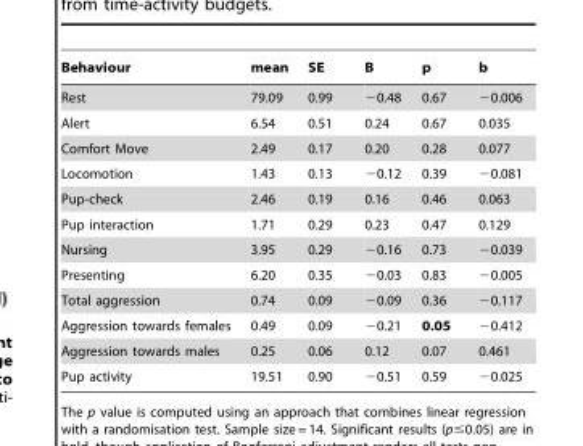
<table><thead><tr><td>Behaviour</td><td>mean</td><td>SE</td><td>B</td><td>p</td><td>b</td></tr></thead><tbody><tr><td>Rest</td><td>79.09</td><td>0.99</td><td>−0.48</td><td>0.67</td><td>−0.006</td></tr><tr><td>Alert</td><td>6.54</td><td>0.51</td><td>0.24</td><td>0.67</td><td>0.035</td></tr><tr><td>Comfort Move</td><td>2.49</td><td>0.17</td><td>0.20</td><td>0.28</td><td>0.077</td></tr><tr><td>Locomotion</td><td>1.43</td><td>0.13</td><td>−0.12</td><td>0.39</td><td>−0.081</td></tr><tr><td>Pup-check</td><td>2.46</td><td>0.19</td><td>0.16</td><td>0.46</td><td>0.063</td></tr><tr><td>Pup interaction</td><td>1.71</td><td>0.29</td><td>0.23</td><td>0.47</td><td>0.129</td></tr><tr><td>Nursing</td><td>3.95</td><td>0.29</td><td>−0.16</td><td>0.73</td><td>−0.039</td></tr><tr><td>Presenting</td><td>6.20</td><td>0.35</td><td>−0.03</td><td>0.83</td><td>−0.005</td></tr><tr><td>Total aggression</td><td>0.74</td><td>0.09</td><td>−0.09</td><td>0.36</td><td>−0.117</td></tr><tr><td>Aggression towards females</td><td>0.49</td><td>0.09</td><td>−0.21</td><td>0.05</td><td>−0.412</td></tr><tr><td>Aggression towards males</td><td>0.25</td><td>0.06</td><td>0.12</td><td>0.07</td><td>0.461</td></tr><tr><td>Pup activity</td><td>19.51</td><td>0.90</td><td>−0.51</td><td>0.59</td><td>−0.025</td></tr></tbody></table>